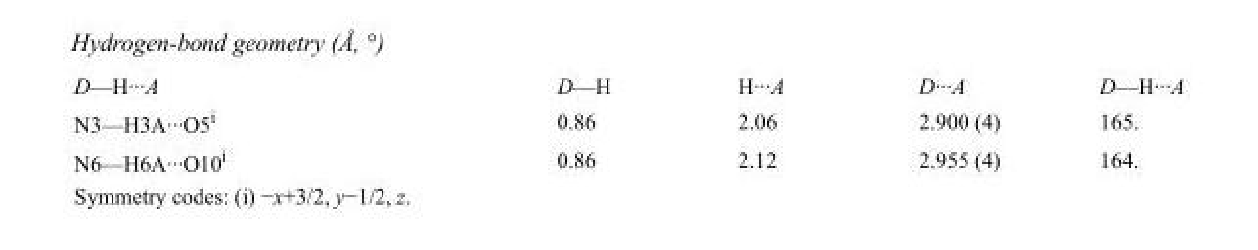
<table><tbody><tr><td>D—H···A</td><td>D—H</td><td>H···A</td><td>D···A</td><td>D—H···A</td></tr><tr><td>N3—H3A···O5<sup>i</sup></td><td>0.86</td><td>2.06</td><td>2.900 (4)</td><td>165.</td></tr><tr><td>N6—H6A···O10<sup>i</sup></td><td>0.86</td><td>2.12</td><td>2.955 (4)</td><td>164.</td></tr></tbody></table>